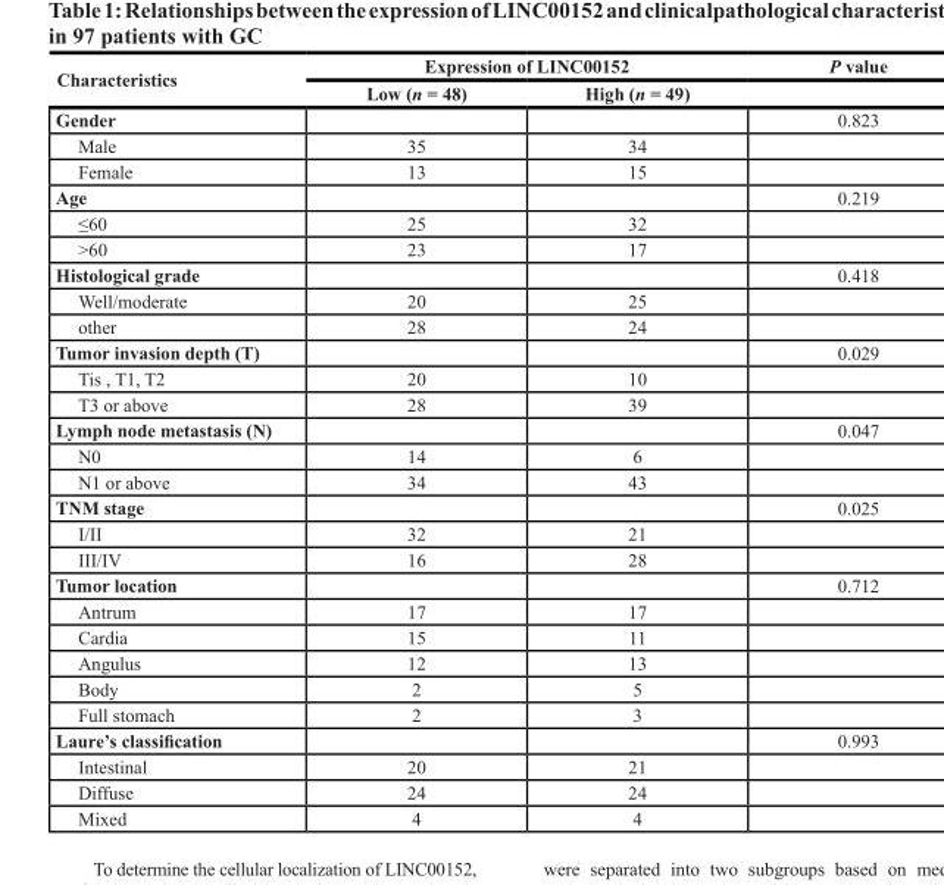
<table><thead><tr><td rowspan="2">Characteristics</td><td colspan="2">Expression of LINC00152</td><td rowspan="2">P value</td></tr><tr><td>Low (n = 48)</td><td>High (n = 49)</td></tr></thead><tbody><tr><td>Gender</td><td></td><td></td><td>0.823</td></tr><tr><td>Male</td><td>35</td><td>34</td><td></td></tr><tr><td>Female</td><td>13</td><td>15</td><td></td></tr><tr><td>Age</td><td></td><td></td><td>0.219</td></tr><tr><td>≤60</td><td>25</td><td>32</td><td></td></tr><tr><td>&gt;60</td><td>23</td><td>17</td><td></td></tr><tr><td>Histological grade</td><td></td><td></td><td>0.418</td></tr><tr><td>Well/moderate</td><td>20</td><td>25</td><td></td></tr><tr><td>other</td><td>28</td><td>24</td><td></td></tr><tr><td>Tumor invasion depth (T)</td><td></td><td></td><td>0.029</td></tr><tr><td>Tis , T1, T2</td><td>20</td><td>10</td><td></td></tr><tr><td>T3 or above</td><td>28</td><td>39</td><td></td></tr><tr><td>Lymph node metastasis (N)</td><td></td><td></td><td>0.047</td></tr><tr><td>N0</td><td>14</td><td>6</td><td></td></tr><tr><td>N1 or above</td><td>34</td><td>43</td><td></td></tr><tr><td>TNM stage</td><td></td><td></td><td>0.025</td></tr><tr><td>I/II</td><td>32</td><td>21</td><td></td></tr><tr><td>III/IV</td><td>16</td><td>28</td><td></td></tr><tr><td>Tumor location</td><td></td><td></td><td>0.712</td></tr><tr><td>Antrum</td><td>17</td><td>17</td><td></td></tr><tr><td>Cardia</td><td>15</td><td>11</td><td></td></tr><tr><td>Angulus</td><td>12</td><td>13</td><td></td></tr><tr><td>Body</td><td>2</td><td>5</td><td></td></tr><tr><td>Full stomach</td><td>2</td><td>3</td><td></td></tr><tr><td>Laure’s classification</td><td></td><td></td><td>0.993</td></tr><tr><td>Intestinal</td><td>20</td><td>21</td><td></td></tr><tr><td>Diffuse</td><td>24</td><td>24</td><td></td></tr><tr><td>Mixed</td><td>4</td><td>4</td><td></td></tr></tbody></table>